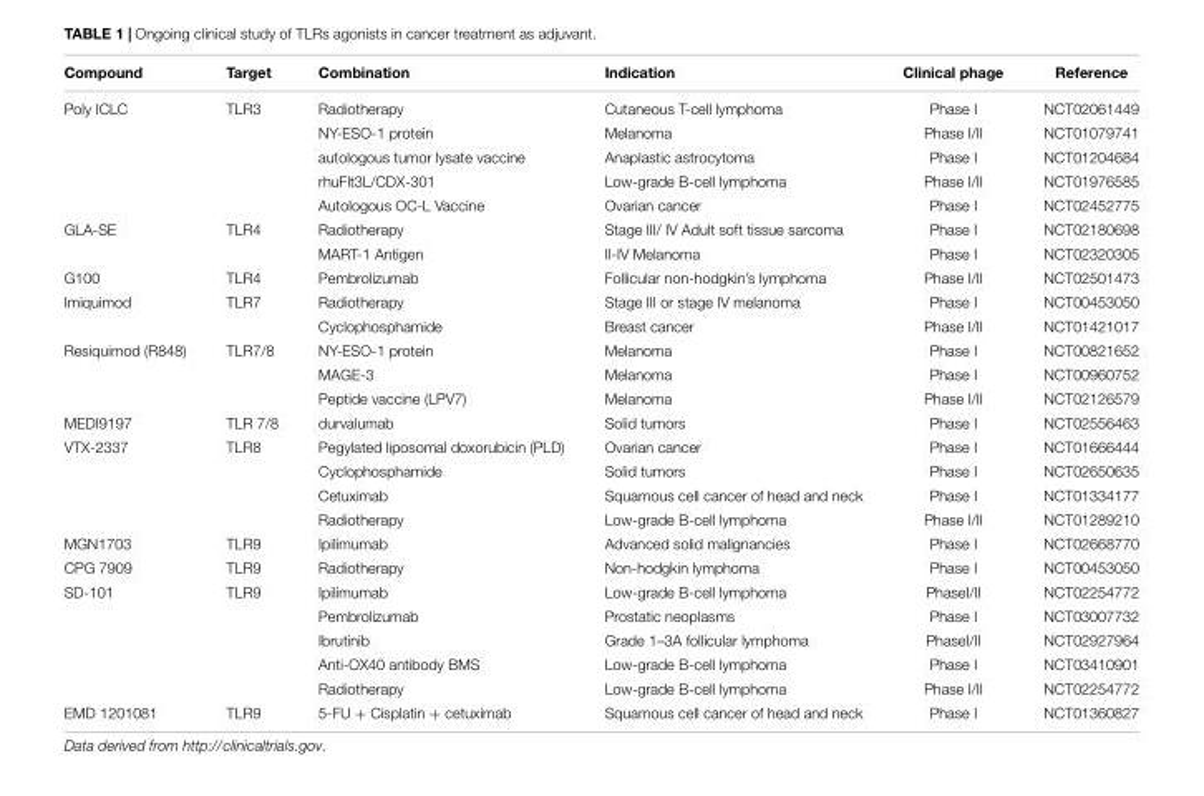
<table><thead><tr><td>Compound</td><td>Target</td><td>Combination</td><td>Indication</td><td>Clinical phage</td><td>Reference</td></tr></thead><tbody><tr><td rowspan="5">Poly ICLC</td><td>TLR3</td><td>Radiotherapy</td><td>Cutaneous T-cell lymphoma</td><td>Phase I</td><td>NCT02061449</td></tr><tr><td></td><td>NY-ESO-1 protein</td><td>Melanoma</td><td>Phase I/II</td><td>NCT01079741</td></tr><tr><td></td><td>autologous tumor lysate vaccine</td><td>Anaplastic astrocytoma</td><td>Phase I</td><td>NCT01204684</td></tr><tr><td></td><td>rhuFlt3L/CDX-301</td><td>Low-grade B-cell lymphoma</td><td>Phase I/II</td><td>NCT01976585</td></tr><tr><td></td><td>Autologous OC-L Vaccine</td><td>Ovarian cancer</td><td>Phase I</td><td>NCT02452775</td></tr><tr><td rowspan="2">GLA-SE</td><td>TLR4</td><td>Radiotherapy</td><td>Stage III/ IV Adult soft tissue sarcoma</td><td>Phase I</td><td>NCT02180698</td></tr><tr><td></td><td>MART-1 Antigen</td><td>II-IV Melanoma</td><td>Phase I</td><td>NCT02320305</td></tr><tr><td>G100</td><td>TLR4</td><td>Pembrolizumab</td><td>Follicular non-hodgkin’s lymphoma</td><td>Phase I/II</td><td>NCT02501473</td></tr><tr><td rowspan="2">Imiquimod</td><td>TLR7</td><td>Radiotherapy</td><td>Stage III or stage IV melanoma</td><td>Phase I</td><td>NCT00453050</td></tr><tr><td></td><td>Cyclophosphamide</td><td>Breast cancer</td><td>Phase I/II</td><td>NCT01421017</td></tr><tr><td rowspan="3">Resiquimod (R848)</td><td>TLR7/8</td><td>NY-ESO-1 protein</td><td>Melanoma</td><td>Phase I</td><td>NCT00821652</td></tr><tr><td></td><td>MAGE-3</td><td>Melanoma</td><td>Phase I</td><td>NCT00960752</td></tr><tr><td></td><td>Peptide vaccine (LPV7)</td><td>Melanoma</td><td>Phase I/II</td><td>NCT02126579</td></tr><tr><td>MEDI9197</td><td>TLR 7/8</td><td>durvalumab</td><td>Solid tumors</td><td>Phase I</td><td>NCT02556463</td></tr><tr><td rowspan="4">VTX-2337</td><td>TLR8</td><td>Pegylated liposomal doxorubicin (PLD)</td><td>Ovarian cancer</td><td>Phase I</td><td>NCT01666444</td></tr><tr><td></td><td>Cyclophosphamide</td><td>Solid tumors</td><td>Phase I</td><td>NCT02650635</td></tr><tr><td></td><td>Cetuximab</td><td>Squamous cell cancer of head and neck</td><td>Phase I</td><td>NCT01334177</td></tr><tr><td></td><td>Radiotherapy</td><td>Low-grade B-cell lymphoma</td><td>Phase I/II</td><td>NCT01289210</td></tr><tr><td>MGN1703</td><td>TLR9</td><td>Ipilimumab</td><td>Advanced solid malignancies</td><td>Phase I</td><td>NCT02668770</td></tr><tr><td>CPG 7909</td><td>TLR9</td><td>Radiotherapy</td><td>Non-hodgkin lymphoma</td><td>Phase I</td><td>NCT00453050</td></tr><tr><td rowspan="5">SD-101</td><td>TLR9</td><td>Ipilimumab</td><td>Low-grade B-cell lymphoma</td><td>PhaseI/II</td><td>NCT02254772</td></tr><tr><td></td><td>Pembrolizumab</td><td>Prostatic neoplasms</td><td>Phase I</td><td>NCT03007732</td></tr><tr><td></td><td>Ibrutinib</td><td>Grade 1–3A follicular lymphoma</td><td>PhaseI/II</td><td>NCT02927964</td></tr><tr><td></td><td>Anti-OX40 antibody BMS</td><td>Low-grade B-cell lymphoma</td><td>Phase I</td><td>NCT03410901</td></tr><tr><td></td><td>Radiotherapy</td><td>Low-grade B-cell lymphoma</td><td>Phase I/II</td><td>NCT02254772</td></tr><tr><td>EMD 1201081</td><td>TLR9</td><td>5-FU + Cisplatin + cetuximab</td><td>Squamous cell cancer of head and neck</td><td>Phase I</td><td>NCT01360827</td></tr></tbody></table>